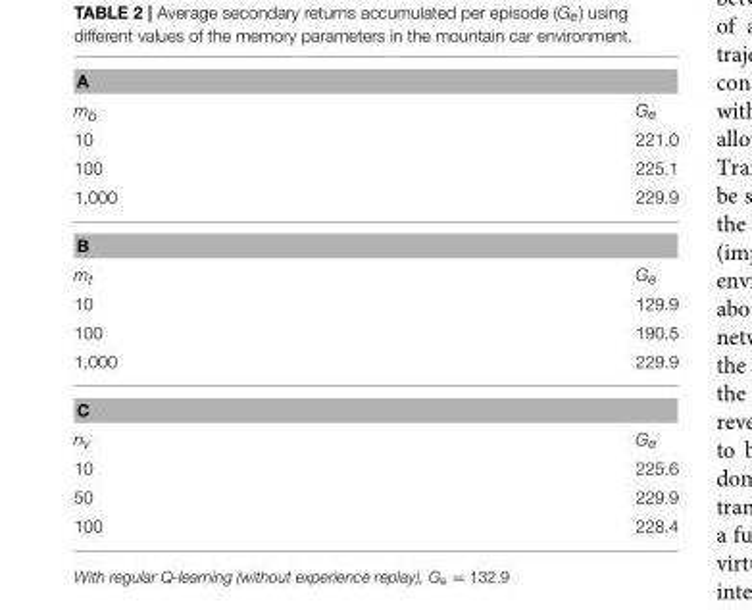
<table><thead><tr><td colspan="2">A</td></tr><tr><td>m<sub>b</sub></td><td>G<sub>e</sub></td></tr></thead><tbody><tr><td>10</td><td>221.0</td></tr><tr><td>100</td><td>225.1</td></tr><tr><td>1,000</td><td>229.9</td></tr><tr><td colspan="2">B</td></tr><tr><td>m<sub>t</sub></td><td>G<sub>e</sub></td></tr><tr><td>10</td><td>129.9</td></tr><tr><td>100</td><td>190.5</td></tr><tr><td>1,000</td><td>229.9</td></tr><tr><td colspan="2">C</td></tr><tr><td>n<sub>v</sub></td><td>G<sub>e</sub></td></tr><tr><td>10</td><td>225.6</td></tr><tr><td>50</td><td>229.9</td></tr><tr><td>100</td><td>228.4</td></tr></tbody></table>